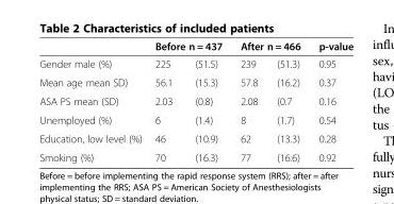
<table><thead><tr><td rowspan="2">Gender male (%)</td><td colspan="2">Before n = 437</td><td colspan="2">After n = 466</td><td rowspan="2">p-value 0.95</td></tr><tr><td>225</td><td>(51.5)</td><td>239</td><td>(51.3)</td></tr></thead><tbody><tr><td>Mean age mean SD)</td><td>56.1</td><td>(15.3)</td><td>57.8</td><td>(16.2)</td><td>0.37</td></tr><tr><td>ASA PS mean (SD)</td><td>2.03</td><td>(0.8)</td><td>2.08</td><td>(0.7</td><td>0.16</td></tr><tr><td>Unemployed (%)</td><td>6</td><td>(1.4)</td><td>8</td><td>(1.7)</td><td>0.54</td></tr><tr><td>Education, low level (%)</td><td>46</td><td>(10.9)</td><td>62</td><td>(13.3)</td><td>0.28</td></tr><tr><td>Smoking (%)</td><td>70</td><td>(16.3)</td><td>77</td><td>(16.6)</td><td>0.92</td></tr></tbody></table>